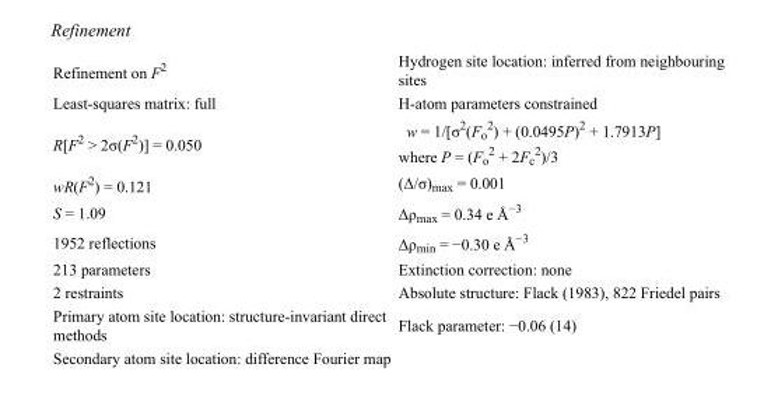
<table><tbody><tr><td>Refinement on F<sup>2</sup></td><td>Hydrogen site location: inferred from neighbouring sites</td></tr><tr><td>Least-squares matrix: full</td><td>H-atom parameters constrained</td></tr><tr><td>R[F<sup>2</sup> &gt; 2σ(F<sup>2</sup>)] = 0.050</td><td>w = 1/[σ<sup>2</sup>(F<sub>o</sub> <sup>2</sup>) + (0.0495P)<sup>2</sup> + 1.7913P] where P = (F<sub>o</sub> <sup>2</sup> + 2F<sub>c</sub> <sup>2</sup>)/3</td></tr><tr><td>wR(F<sup>2</sup>) = 0.121</td><td>(Δ/σ)<sub>max</sub> = 0.001</td></tr><tr><td>S = 1.09</td><td>Δρ<sub>max</sub> = 0.34 e Å<sup>−3</sup></td></tr><tr><td>1952 reflections</td><td>Δρ<sub>min</sub> = −0.30 e Å<sup>−3</sup></td></tr><tr><td>213 parameters</td><td>Extinction correction: none</td></tr><tr><td>2 restraints</td><td>Absolute structure: Flack (1983), 822 Friedel pairs</td></tr><tr><td>Primary atom site location: structure-invariant direct methods</td><td>Flack parameter: −0.06 (14)</td></tr><tr><td>Secondary atom site location: difference Fourier map</td><td></td></tr></tbody></table>